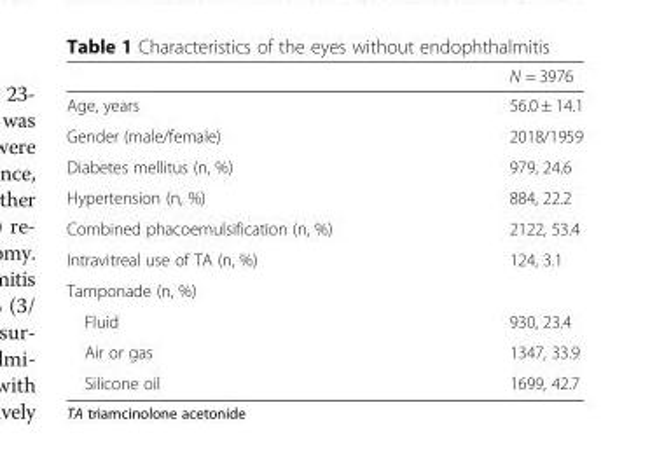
<table><thead><tr><td></td><td>N = 3976</td></tr></thead><tbody><tr><td>Age, years</td><td>56.0 ± 14.1</td></tr><tr><td>Gender (male/female)</td><td>2018/1959</td></tr><tr><td>Diabetes mellitus (n, %)</td><td>979, 24.6</td></tr><tr><td>Hypertension (n, %)</td><td>884, 22.2</td></tr><tr><td>Combined phacoemulsification (n, %)</td><td>2122, 53.4</td></tr><tr><td>Intravitreal use of TA (n, %)</td><td>124, 3.1</td></tr><tr><td colspan="2">Tamponade (n, %)</td></tr><tr><td>Fluid</td><td>930, 23.4</td></tr><tr><td>Air or gas</td><td>1347, 33.9</td></tr><tr><td>Silicone oil</td><td>1699, 42.7</td></tr></tbody></table>